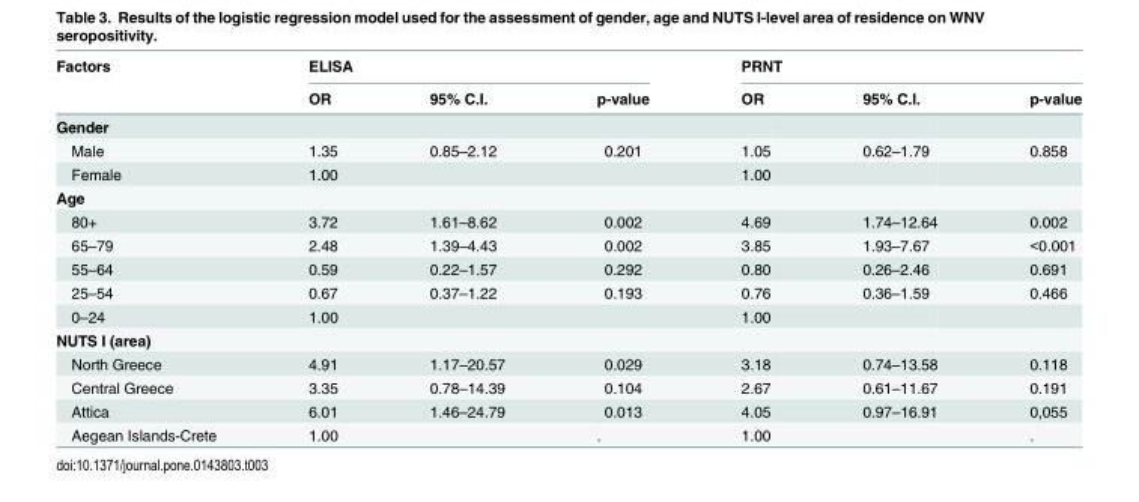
<table><thead><tr><td rowspan="2">Factors</td><td colspan="3">ELISA</td><td colspan="3">PRNT</td></tr><tr><td>OR</td><td>95% C.I.</td><td>p-value</td><td>OR</td><td>95% C.I.</td><td>p-value</td></tr></thead><tbody><tr><td colspan="7">Gender</td></tr><tr><td>Male</td><td>1.35</td><td>0.85–2.12</td><td>0.201</td><td>1.05</td><td>0.62–1.79</td><td>0.858</td></tr><tr><td>Female</td><td>1.00</td><td></td><td></td><td>1.00</td><td></td><td></td></tr><tr><td colspan="7">Age</td></tr><tr><td>80+</td><td>3.72</td><td>1.61–8.62</td><td>0.002</td><td>4.69</td><td>1.74–12.64</td><td>0.002</td></tr><tr><td>65–79</td><td>2.48</td><td>1.39–4.43</td><td>0.002</td><td>3.85</td><td>1.93–7.67</td><td>&lt;0.001</td></tr><tr><td>55–64</td><td>0.59</td><td>0.22–1.57</td><td>0.292</td><td>0.80</td><td>0.26–2.46</td><td>0.691</td></tr><tr><td>25–54</td><td>0.67</td><td>0.37–1.22</td><td>0.193</td><td>0.76</td><td>0.36–1.59</td><td>0.466</td></tr><tr><td>0–24</td><td>1.00</td><td></td><td></td><td>1.00</td><td></td><td></td></tr><tr><td colspan="7">NUTS I (area)</td></tr><tr><td>North Greece</td><td>4.91</td><td>1.17–20.57</td><td>0.029</td><td>3.18</td><td>0.74–13.58</td><td>0.118</td></tr><tr><td>Central Greece</td><td>3.35</td><td>0.78–14.39</td><td>0.104</td><td>2.67</td><td>0.61–11.67</td><td>0.191</td></tr><tr><td>Attica</td><td>6.01</td><td>1.46–24.79</td><td>0.013</td><td>4.05</td><td>0.97–16.91</td><td>0,055</td></tr><tr><td>Aegean Islands-Crete</td><td>1.00</td><td></td><td>.</td><td>1.00</td><td></td><td>.</td></tr></tbody></table>